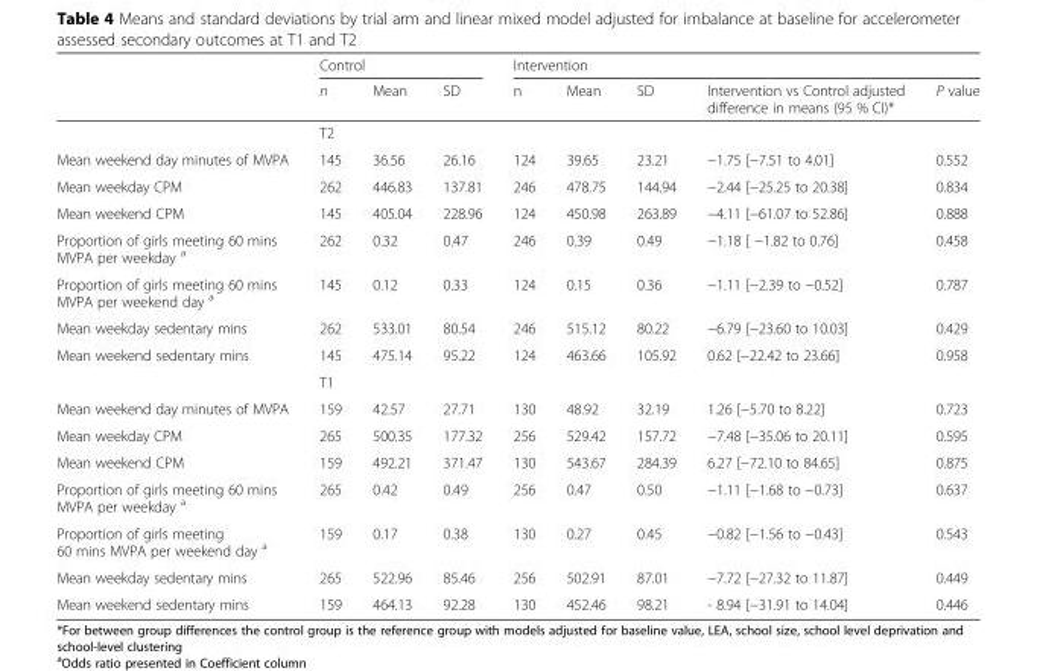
<table><thead><tr><td rowspan="2"></td><td colspan="3">Control</td><td colspan="5">Intervention</td></tr><tr><td>n</td><td>Mean</td><td>SD</td><td>n</td><td>Mean</td><td>SD</td><td>Intervention vs Control adjusted difference in means (95 % CI)*</td><td>P value</td></tr></thead><tbody><tr><td></td><td colspan="7">T2</td><td></td></tr><tr><td>Mean weekend day minutes of MVPA</td><td>145</td><td>36.56</td><td>26.16</td><td>124</td><td>39.65</td><td>23.21</td><td>−1.75 [−7.51 to 4.01]</td><td>0.552</td></tr><tr><td>Mean weekday CPM</td><td>262</td><td>446.83</td><td>137.81</td><td>246</td><td>478.75</td><td>144.94</td><td>−2.44 [−25.25 to 20.38]</td><td>0.834</td></tr><tr><td>Mean weekend CPM</td><td>145</td><td>405.04</td><td>228.96</td><td>124</td><td>450.98</td><td>263.89</td><td>−4.11 [−61.07 to 52.86]</td><td>0.888</td></tr><tr><td>Proportion of girls meeting 60 mins MVPA per weekday <sup>a</sup></td><td>262</td><td>0.32</td><td>0.47</td><td>246</td><td>0.39</td><td>0.49</td><td>−1.18 [ −1.82 to 0.76]</td><td>0.458</td></tr><tr><td>Proportion of girls meeting 60 mins MVPA per weekend day <sup>a</sup></td><td>145</td><td>0.12</td><td>0.33</td><td>124</td><td>0.15</td><td>0.36</td><td>−1.11 [−2.39 to −0.52]</td><td>0.787</td></tr><tr><td>Mean weekday sedentary mins</td><td>262</td><td>533.01</td><td>80.54</td><td>246</td><td>515.12</td><td>80.22</td><td>−6.79 [−23.60 to 10.03]</td><td>0.429</td></tr><tr><td rowspan="2">Mean weekend sedentary mins</td><td>145</td><td>475.14</td><td>95.22</td><td>124</td><td>463.66</td><td>105.92</td><td>0.62 [−22.42 to 23.66]</td><td>0.958</td></tr><tr><td colspan="7">T1</td><td></td></tr><tr><td>Mean weekend day minutes of MVPA</td><td>159</td><td>42.57</td><td>27.71</td><td>130</td><td>48.92</td><td>32.19</td><td>1.26 [−5.70 to 8.22]</td><td>0.723</td></tr><tr><td>Mean weekday CPM</td><td>265</td><td>500.35</td><td>177.32</td><td>256</td><td>529.42</td><td>157.72</td><td>−7.48 [−35.06 to 20.11]</td><td>0.595</td></tr><tr><td>Mean weekend CPM</td><td>159</td><td>492.21</td><td>371.47</td><td>130</td><td>543.67</td><td>284.39</td><td>6.27 [−72.10 to 84.65]</td><td>0.875</td></tr><tr><td>Proportion of girls meeting 60 mins MVPA per weekday <sup>a</sup></td><td>265</td><td>0.42</td><td>0.49</td><td>256</td><td>0.47</td><td>0.50</td><td>−1.11 [−1.68 to −0.73]</td><td>0.637</td></tr><tr><td>Proportion of girls meeting 60 mins MVPA per weekend day <sup>a</sup></td><td>159</td><td>0.17</td><td>0.38</td><td>130</td><td>0.27</td><td>0.45</td><td>−0.82 [−1.56 to −0.43]</td><td>0.543</td></tr><tr><td>Mean weekday sedentary mins</td><td>265</td><td>522.96</td><td>85.46</td><td>256</td><td>502.91</td><td>87.01</td><td>−7.72 [−27.32 to 11.87]</td><td>0.449</td></tr><tr><td>Mean weekend sedentary mins</td><td>159</td><td>464.13</td><td>92.28</td><td>130</td><td>452.46</td><td>98.21</td><td>- 8.94 [−31.91 to 14.04]</td><td>0.446</td></tr></tbody></table>